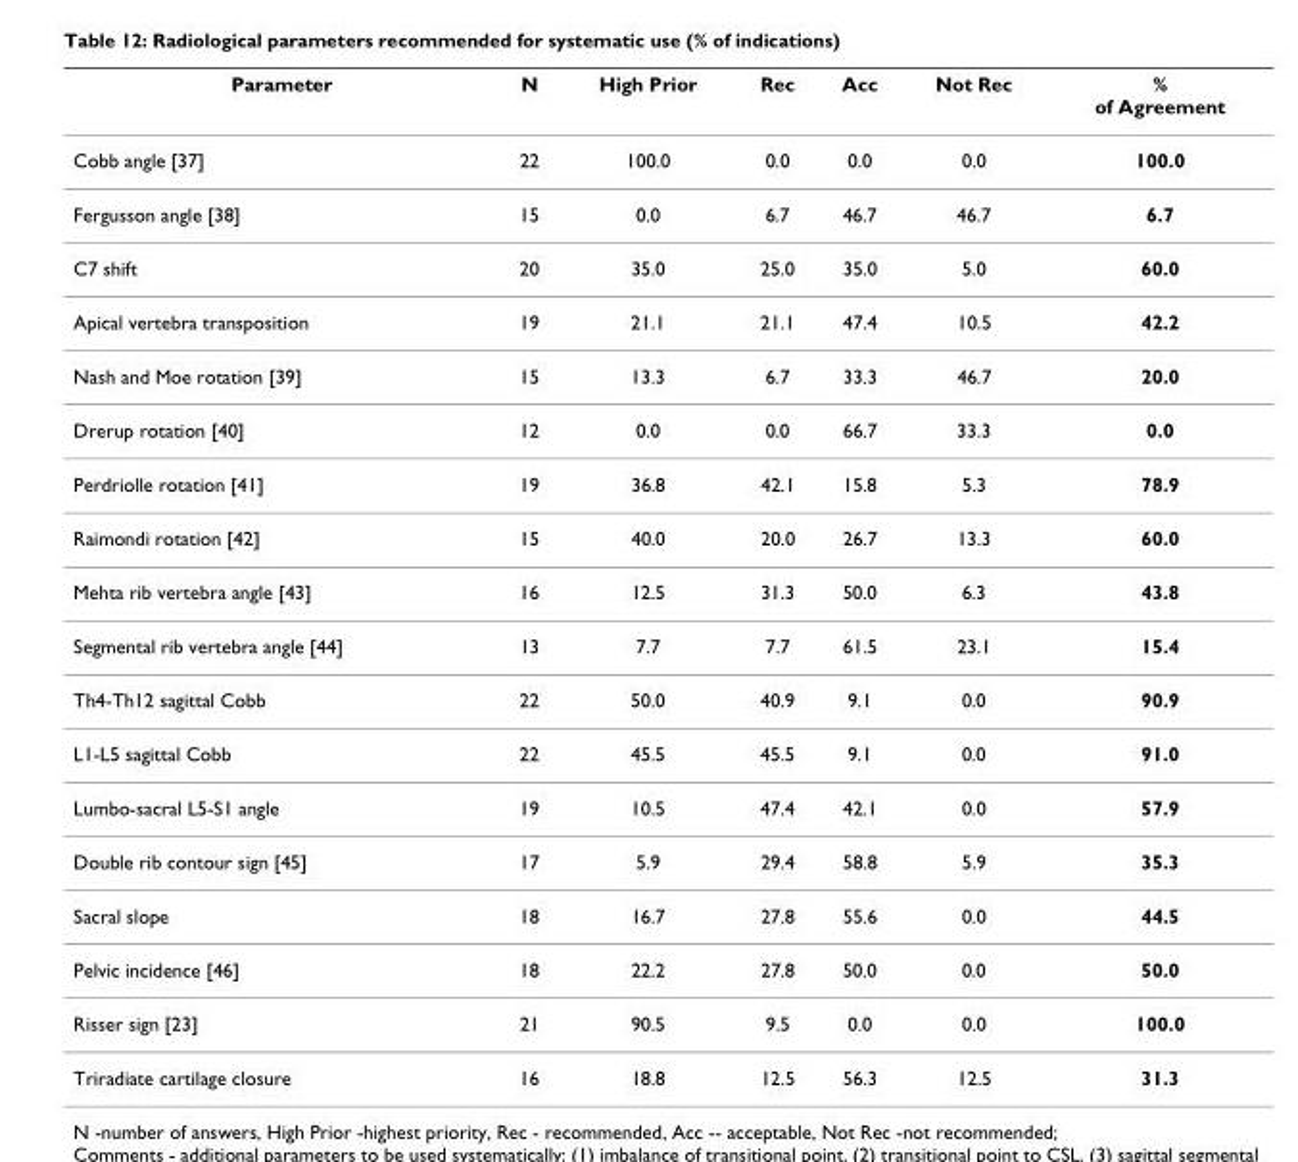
<table><thead><tr><td>Parameter</td><td>N</td><td>High Prior</td><td>Rec</td><td>Acc</td><td>Not Rec</td><td>% of Agreement</td></tr></thead><tbody><tr><td>Cobb angle [37]</td><td>22</td><td>100.0</td><td>0.0</td><td>0.0</td><td>0.0</td><td>100.0</td></tr><tr><td>Fergusson angle [38]</td><td>15</td><td>0.0</td><td>6.7</td><td>46.7</td><td>46.7</td><td>6.7</td></tr><tr><td>C7 shift</td><td>20</td><td>35.0</td><td>25.0</td><td>35.0</td><td>5.0</td><td>60.0</td></tr><tr><td>Apical vertebra transposition</td><td>19</td><td>21.1</td><td>21.1</td><td>47.4</td><td>10.5</td><td>42.2</td></tr><tr><td>Nash and Moe rotation [39]</td><td>15</td><td>13.3</td><td>6.7</td><td>33.3</td><td>46.7</td><td>20.0</td></tr><tr><td>Drerup rotation [40]</td><td>12</td><td>0.0</td><td>0.0</td><td>66.7</td><td>33.3</td><td>0.0</td></tr><tr><td>Perdriolle rotation [41]</td><td>19</td><td>36.8</td><td>42.1</td><td>15.8</td><td>5.3</td><td>78.9</td></tr><tr><td>Raimondi rotation [42]</td><td>15</td><td>40.0</td><td>20.0</td><td>26.7</td><td>13.3</td><td>60.0</td></tr><tr><td>Mehta rib vertebra angle [43]</td><td>16</td><td>12.5</td><td>31.3</td><td>50.0</td><td>6.3</td><td>43.8</td></tr><tr><td>Segmental rib vertebra angle [44]</td><td>13</td><td>7.7</td><td>7.7</td><td>61.5</td><td>23.1</td><td>15.4</td></tr><tr><td>Th4-Th12 sagittal Cobb</td><td>22</td><td>50.0</td><td>40.9</td><td>9.1</td><td>0.0</td><td>90.9</td></tr><tr><td>L1-L5 sagittal Cobb</td><td>22</td><td>45.5</td><td>45.5</td><td>9.1</td><td>0.0</td><td>91.0</td></tr><tr><td>Lumbo-sacral L5-S1 angle</td><td>19</td><td>10.5</td><td>47.4</td><td>42.1</td><td>0.0</td><td>57.9</td></tr><tr><td>Double rib contour sign [45]</td><td>17</td><td>5.9</td><td>29.4</td><td>58.8</td><td>5.9</td><td>35.3</td></tr><tr><td>Sacral slope</td><td>18</td><td>16.7</td><td>27.8</td><td>55.6</td><td>0.0</td><td>44.5</td></tr><tr><td>Pelvic incidence [46]</td><td>18</td><td>22.2</td><td>27.8</td><td>50.0</td><td>0.0</td><td>50.0</td></tr><tr><td>Risser sign [23]</td><td>21</td><td>90.5</td><td>9.5</td><td>0.0</td><td>0.0</td><td>100.0</td></tr><tr><td>Triradiate cartilage closure</td><td>16</td><td>18.8</td><td>12.5</td><td>56.3</td><td>12.5</td><td>31.3</td></tr></tbody></table>